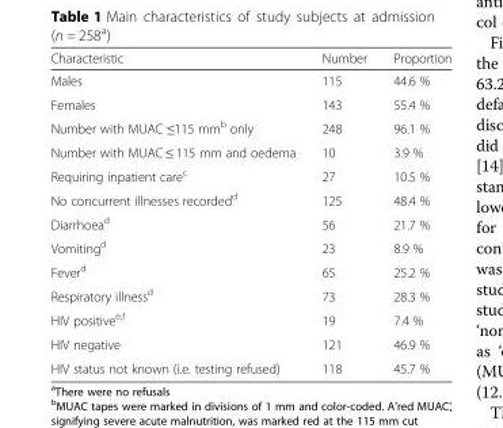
<table><thead><tr><td>Characteristic</td><td>Number</td><td>Proportion</td></tr></thead><tbody><tr><td>Males</td><td>115</td><td>44.6 %</td></tr><tr><td>Females</td><td>143</td><td>55.4 %</td></tr><tr><td>Number with MUAC ≤115 mm<sup>b</sup> only</td><td>248</td><td>96.1 %</td></tr><tr><td>Number with MUAC ≤ 115 mm and oedema</td><td>10</td><td>3.9 %</td></tr><tr><td>Requiring inpatient care<sup>c</sup></td><td>27</td><td>10.5 %</td></tr><tr><td>No concurrent illnesses recorded<sup>d</sup></td><td>125</td><td>48.4 %</td></tr><tr><td>Diarrhoea<sup>d</sup></td><td>56</td><td>21.7 %</td></tr><tr><td>Vomiting<sup>d</sup></td><td>23</td><td>8.9 %</td></tr><tr><td>Fever<sup>d</sup></td><td>65</td><td>25.2 %</td></tr><tr><td>Respiratory illness<sup>d</sup></td><td>73</td><td>28.3 %</td></tr><tr><td>HIV positive<sup>e,f</sup></td><td>19</td><td>7.4 %</td></tr><tr><td>HIV negative</td><td>121</td><td>46.9 %</td></tr><tr><td>HIV status not known (i.e. testing refused)</td><td>118</td><td>45.7 %</td></tr></tbody></table>